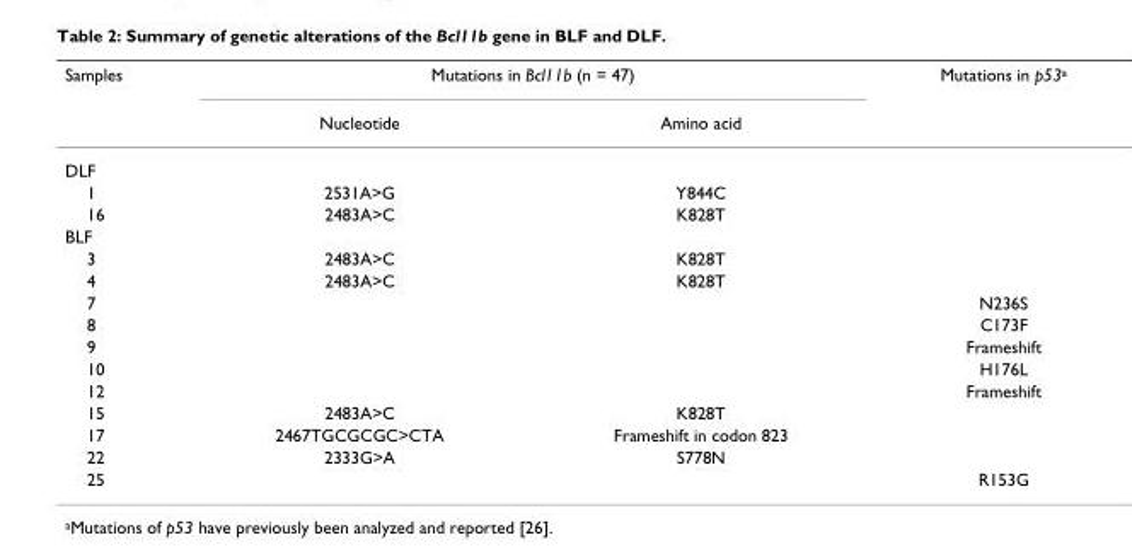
<table><thead><tr><td rowspan="2">Samples</td><td colspan="2">Mutations in Bcl11b (n = 47)</td><td rowspan="2">Mutations in p53<sup>a</sup></td></tr><tr><td>Nucleotide</td><td>Amino acid</td></tr></thead><tbody><tr><td colspan="4">DLF</td></tr><tr><td>1</td><td>2531A&gt;G</td><td>Y844C</td><td></td></tr><tr><td>16</td><td>2483A&gt;C</td><td>K828T</td><td></td></tr><tr><td colspan="4">BLF</td></tr><tr><td>3</td><td>2483A&gt;C</td><td>K828T</td><td></td></tr><tr><td>4</td><td>2483A&gt;C</td><td>K828T</td><td></td></tr><tr><td>7</td><td></td><td></td><td>N236S</td></tr><tr><td>8</td><td></td><td></td><td>C173F</td></tr><tr><td>9</td><td></td><td></td><td>Frameshift</td></tr><tr><td>10</td><td></td><td></td><td>H176L</td></tr><tr><td>12</td><td></td><td></td><td>Frameshift</td></tr><tr><td>15</td><td>2483A&gt;C</td><td>K828T</td><td></td></tr><tr><td>17</td><td>2467TGCGCGC&gt;CTA</td><td>Frameshift in codon 823</td><td></td></tr><tr><td>22</td><td>2333G&gt;A</td><td>S778N</td><td></td></tr><tr><td>25</td><td></td><td></td><td>R153G</td></tr></tbody></table>